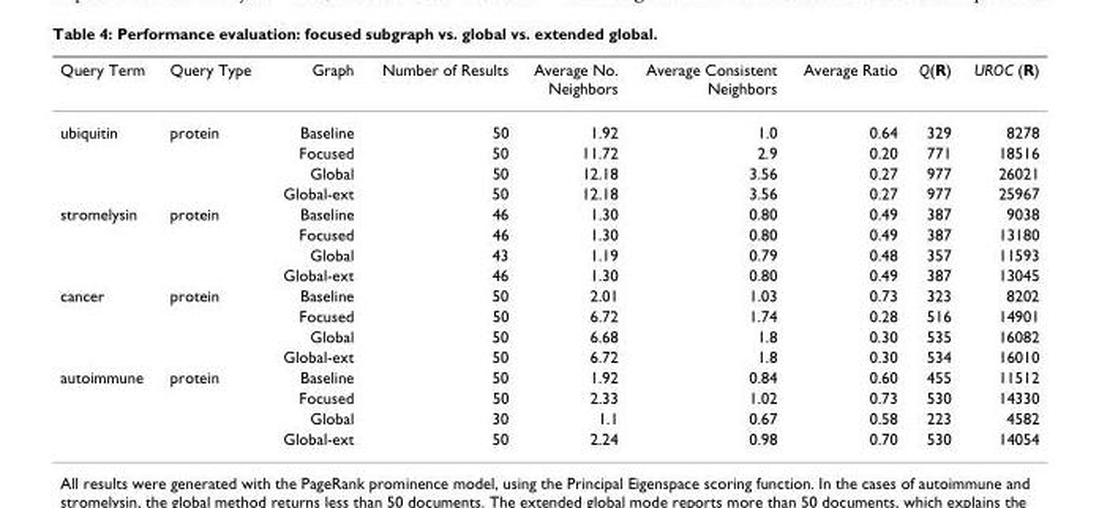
<table><thead><tr><td>Query Term</td><td>Query Type</td><td>Graph</td><td>Number of Results</td><td>Average No. Neighbors</td><td>Average Consistent Neighbors</td><td>Average Ratio</td><td>Q(R)</td><td>UROC (R)</td></tr></thead><tbody><tr><td rowspan="4">ubiquitin</td><td>protein</td><td>Baseline</td><td>50</td><td>1.92</td><td>1.0</td><td>0.64</td><td>329</td><td>8278</td></tr><tr><td></td><td>Focused</td><td>50</td><td>11.72</td><td>2.9</td><td>0.20</td><td>771</td><td>18516</td></tr><tr><td></td><td>Global</td><td>50</td><td>12.18</td><td>3.56</td><td>0.27</td><td>977</td><td>26021</td></tr><tr><td></td><td>Global-ext</td><td>50</td><td>12.18</td><td>3.56</td><td>0.27</td><td>977</td><td>25967</td></tr><tr><td rowspan="4">stromelysin</td><td>protein</td><td>Baseline</td><td>46</td><td>1.30</td><td>0.80</td><td>0.49</td><td>387</td><td>9038</td></tr><tr><td></td><td>Focused</td><td>46</td><td>1.30</td><td>0.80</td><td>0.49</td><td>387</td><td>13180</td></tr><tr><td></td><td>Global</td><td>43</td><td>1.19</td><td>0.79</td><td>0.48</td><td>357</td><td>11593</td></tr><tr><td></td><td>Global-ext</td><td>46</td><td>1.30</td><td>0.80</td><td>0.49</td><td>387</td><td>13045</td></tr><tr><td rowspan="4">cancer</td><td>protein</td><td>Baseline</td><td>50</td><td>2.01</td><td>1.03</td><td>0.73</td><td>323</td><td>8202</td></tr><tr><td></td><td>Focused</td><td>50</td><td>6.72</td><td>1.74</td><td>0.28</td><td>516</td><td>14901</td></tr><tr><td></td><td>Global</td><td>50</td><td>6.68</td><td>1.8</td><td>0.30</td><td>535</td><td>16082</td></tr><tr><td></td><td>Global-ext</td><td>50</td><td>6.72</td><td>1.8</td><td>0.30</td><td>534</td><td>16010</td></tr><tr><td rowspan="4">autoimmune</td><td>protein</td><td>Baseline</td><td>50</td><td>1.92</td><td>0.84</td><td>0.60</td><td>455</td><td>11512</td></tr><tr><td></td><td>Focused</td><td>50</td><td>2.33</td><td>1.02</td><td>0.73</td><td>530</td><td>14330</td></tr><tr><td></td><td>Global</td><td>30</td><td>1.1</td><td>0.67</td><td>0.58</td><td>223</td><td>4582</td></tr><tr><td></td><td>Global-ext</td><td>50</td><td>2.24</td><td>0.98</td><td>0.70</td><td>530</td><td>14054</td></tr></tbody></table>